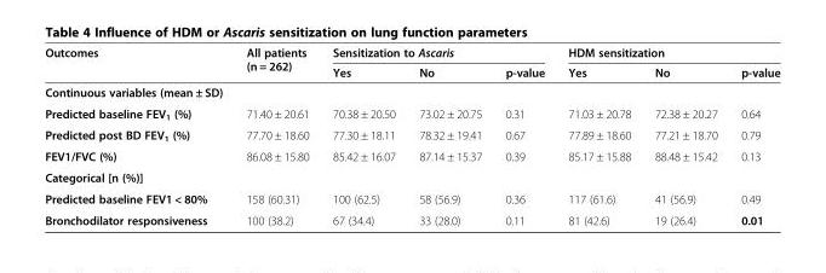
<table><thead><tr><td rowspan="2">Outcomes</td><td rowspan="2">All patients (n = 262)</td><td colspan="3">Sensitization to Ascaris</td><td colspan="3">HDM sensitization</td></tr><tr><td>Yes</td><td>No</td><td>p-value</td><td>Yes</td><td>No</td><td>p-value</td></tr></thead><tbody><tr><td colspan="8">Continuous variables (mean ± SD)</td></tr><tr><td>Predicted baseline FEV<sub>1</sub> (%)</td><td>71.40 ± 20.61</td><td>70.38 ± 20.50</td><td>73.02 ± 20.75</td><td>0.31</td><td>71.03 ± 20.78</td><td>72.38 ± 20.27</td><td>0.64</td></tr><tr><td>Predicted post BD FEV<sub>1</sub> (%)</td><td>77.70 ± 18.60</td><td>77.30 ± 18.11</td><td>78.32 ± 19.41</td><td>0.67</td><td>77.89 ± 18.60</td><td>77.21 ± 18.70</td><td>0.79</td></tr><tr><td>FEV1/FVC (%)</td><td>86.08 ± 15.80</td><td>85.42 ± 16.07</td><td>87.14 ± 15.37</td><td>0.39</td><td>85.17 ± 15.88</td><td>88.48 ± 15.42</td><td>0.13</td></tr><tr><td colspan="8">Categorical [n (%)]</td></tr><tr><td>Predicted baseline FEV1 &lt; 80%</td><td>158 (60.31)</td><td>100 (62.5)</td><td>58 (56.9)</td><td>0.36</td><td>117 (61.6)</td><td>41 (56.9)</td><td>0.49</td></tr><tr><td>Bronchodilator responsiveness</td><td>100 (38.2)</td><td>67 (34.4)</td><td>33 (28.0)</td><td>0.11</td><td>81 (42.6)</td><td>19 (26.4)</td><td>0.01</td></tr></tbody></table>